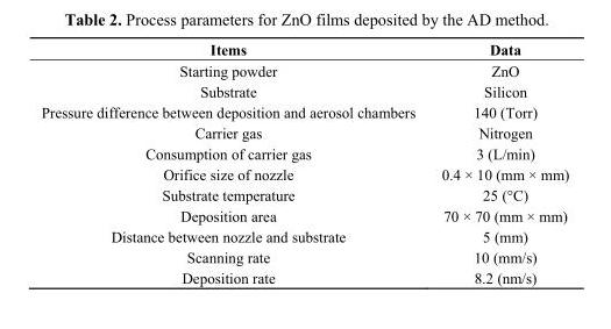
<table><thead><tr><td>Items</td><td>Data</td></tr></thead><tbody><tr><td>Starting powder</td><td>ZnO</td></tr><tr><td>Substrate</td><td>Silicon</td></tr><tr><td>Pressure difference between deposition and aerosol chambers</td><td>140 (Torr)</td></tr><tr><td>Carrier gas</td><td>Nitrogen</td></tr><tr><td>Consumption of carrier gas</td><td>3 (L/min)</td></tr><tr><td>Orifice size of nozzle</td><td>0.4 × 10 (mm × mm)</td></tr><tr><td>Substrate temperature</td><td>25 (°C)</td></tr><tr><td>Deposition area</td><td>70 × 70 (mm × mm)</td></tr><tr><td>Distance between nozzle and substrate</td><td>5 (mm)</td></tr><tr><td>Scanning rate</td><td>10 (mm/s)</td></tr><tr><td>Deposition rate</td><td>8.2 (nm/s)</td></tr></tbody></table>